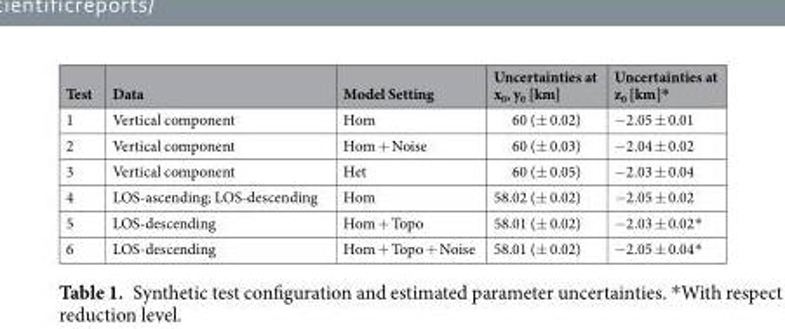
<table><thead><tr><td>Test</td><td>Data</td><td>Model Setting</td><td>Uncertainties at x<sub>0</sub>, y<sub>0</sub> [km]</td><td>Uncertainties at z<sub>0</sub> [km]*</td></tr></thead><tbody><tr><td>1</td><td>Vertical component</td><td>Hom</td><td>60 (± 0.02)</td><td>−2.05 ± 0.01</td></tr><tr><td>2</td><td>Vertical component</td><td>Hom + Noise</td><td>60 (± 0.03)</td><td>−2.04 ± 0.02</td></tr><tr><td>3</td><td>Vertical component</td><td>Het</td><td>60 (± 0.05)</td><td>−2.03 ± 0.04</td></tr><tr><td>4</td><td>LOS-ascending; LOS-descending</td><td>Hom</td><td>58.02 (± 0.02)</td><td>−2.05 ± 0.02</td></tr><tr><td>5</td><td>LOS-descending</td><td>Hom + Topo</td><td>58.01 (± 0.02)</td><td>−2.03 ± 0.02*</td></tr><tr><td>6</td><td>LOS-descending</td><td>Hom + Topo + Noise</td><td>58.01 (± 0.02)</td><td>−2.05 ± 0.04*</td></tr></tbody></table>